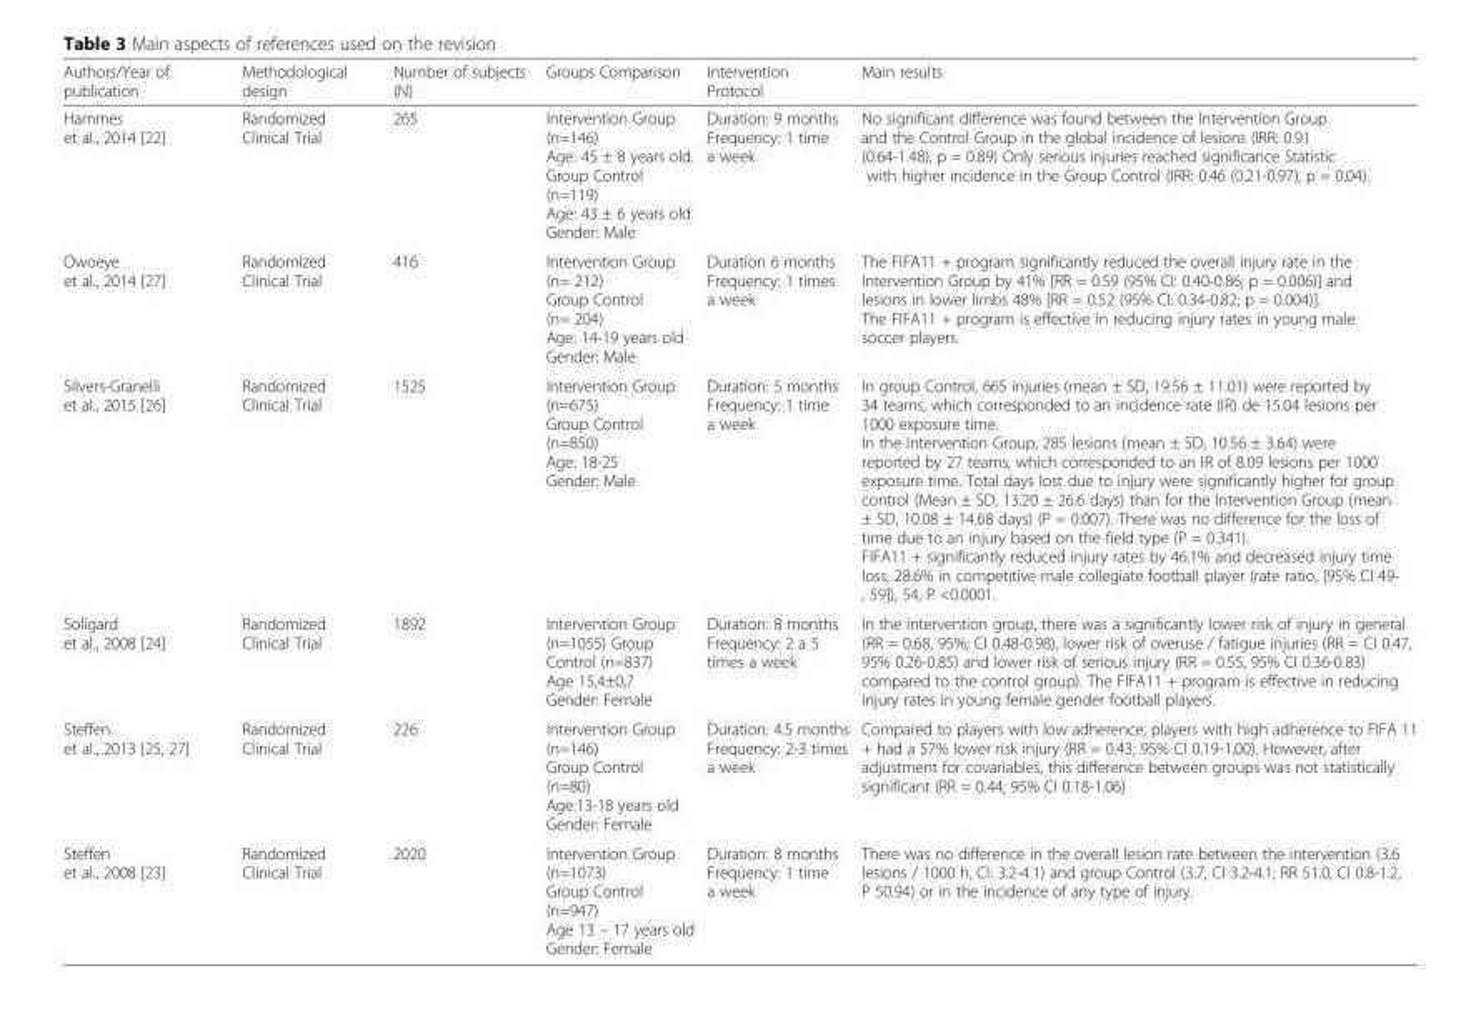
<table><thead><tr><td>Authors/Year of publication</td><td>Methodological design</td><td>Number of subjects (N)</td><td>Groups Comparison</td><td>Intervention Protocol</td><td>Main results</td></tr></thead><tbody><tr><td>Hammes et al., 2014 [22]</td><td>Randomized Clinical Trial</td><td>265</td><td>Intervention Group (n=146) Age: 45 ± 8 years old. Group Control (n=119) Age: 43 ± 6 years old. Gender: Male</td><td>Duration: 9 months Frequency: 1 time a week</td><td>No significant difference was found between the Intervention Group and the Control Group in the global incidence of lesions (IRR: 0.91 (0.64-1.48), p = 0.89) Only serious injuries reached significance Statistic with higher incidence in the Group Control (IRR: 0.46 (0.21-0.97), p = 0.04).</td></tr><tr><td>Owoeye et al., 2014 [27]</td><td>Randomized Clinical Trial</td><td>416</td><td>Intervention Group (n= 212) Group Control (n= 204) Age: 14-19 years old Gender: Male</td><td>Duration 6 months Frequency: 1 times a week</td><td>The FIFA11 + program significantly reduced the overall injury rate in the Intervention Group by 41% [RR = 0.59 (95% CI: 0.40-0.86; p = 0.006)] and lesions in lower limbs 48% [RR = 0.52 (95% CI: 0.34-0.82; p = 0.004)]. The FIFA11 + program is effective in reducing injury rates in young male soccer players.</td></tr><tr><td>Silvers-Granelli et al., 2015 [26]</td><td>Randomized Clinical Trial</td><td>1525</td><td>Intervention Group (n=675) Group Control (n=850) Age: 18-25 Gender: Male</td><td>Duration: 5 months Frequency: 1 time a week</td><td>In group Control, 665 injuries (mean ± SD, 19.56 ± 11.01) were reported by 34 teams, which corresponded to an incidence rate (IR) de 15.04 lesions per 1000 exposure time. In the Intervention Group, 285 lesions (mean ± SD, 10.56 ± 3.64) were reported by 27 teams, which corresponded to an IR of 8.09 lesions per 1000 exposure time. Total days lost due to injury were significantly higher for group control (Mean ± SD, 13.20 ± 26.6 days) than for the Intervention Group (mean ± SD, 10.08 ± 14.68 days) (P = 0.007). There was no difference for the loss of time due to an injury based on the field type (P = 0.341). FIFA11 + significantly reduced injury rates by 46.1% and decreased injury time loss, 28.6% in competitive male collegiate football player (rate ratio, [95% CI 49- , 59]), 54, P &lt;0.0001.</td></tr><tr><td>Soligard et al., 2008 [24]</td><td>Randomized Clinical Trial</td><td>1892</td><td>Intervention Group (n=1055) Group Control (n=837) Age 15,4±0,7 Gender: Female</td><td>Duration: 8 months Frequency: 2 a 5 times a week</td><td>In the intervention group, there was a significantly lower risk of injury in general (RR = 0.68, 95%; CI 0.48-0.98), lower risk of overuse / fatigue injuries (RR = CI 0.47, 95% 0.26-0.85) and lower risk of serious injury (RR = 0.55, 95% CI 0.36-0.83) compared to the control group). The FIFA11 + program is effective in reducing injury rates in young female gender football players.</td></tr><tr><td>Steffen et al., 2013 [25, 27]</td><td>Randomized Clinical Trial</td><td>226</td><td>Intervention Group (n=146) Group Control (n=80) Age:13-18 years old Gender: Female</td><td>Duration: 4.5 months Frequency: 2-3 times a week</td><td>Compared to players with low adherence, players with high adherence to FIFA 11 + had a 57% lower risk injury (RR = 0.43; 95% CI 0.19-1.00). However, after adjustment for covariables, this difference between groups was not statistically significant (RR = 0.44; 95% CI 0.18-1.06)</td></tr><tr><td>Steffen et al., 2008 [23]</td><td>Randomized Clinical Trial</td><td>2020</td><td>Intervention Group (n=1073) Group Control (n=947) Age 13 – 17 years old Gender: Female</td><td>Duration: 8 months Frequency: 1 time a week</td><td>There was no difference in the overall lesion rate between the intervention (3.6 lesions / 1000 h, CI: 3.2-4.1) and group Control (3.7, Cl 3.2-4.1; RR 51.0, CI 0.8-1.2, P 50.94) or in the incidence of any type of injury.</td></tr></tbody></table>